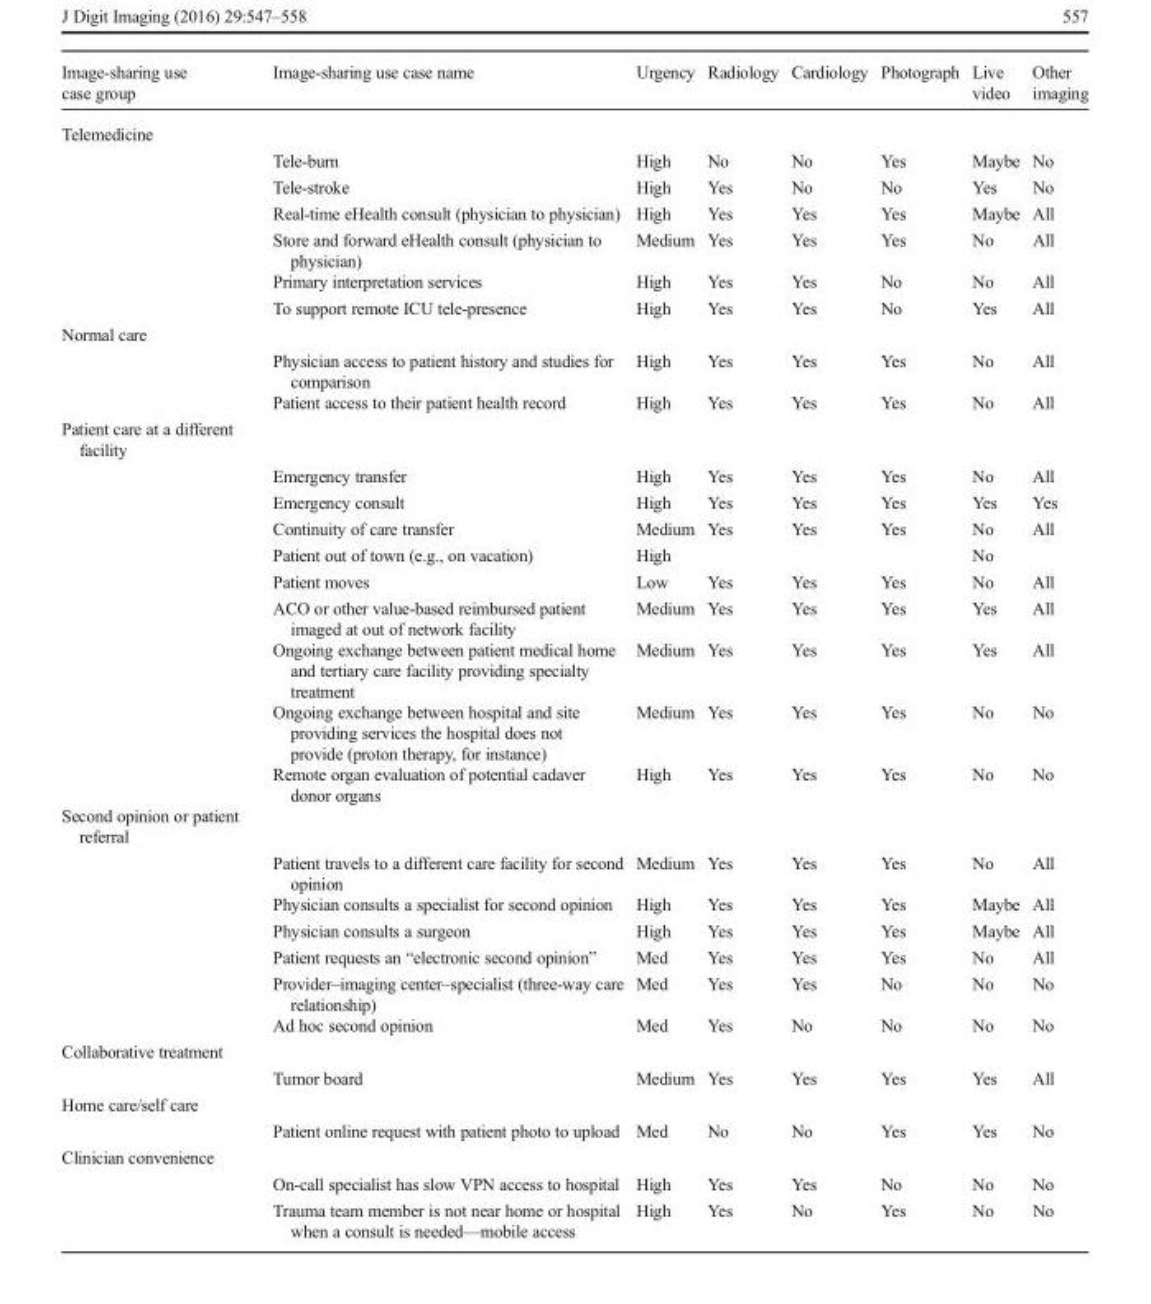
<table><thead><tr><td>Image-sharing use case group</td><td>Image-sharing use case name</td><td>Urgency</td><td>Radiology</td><td>Cardiology</td><td>Photograph</td><td>Live video</td><td>Other imaging</td></tr></thead><tbody><tr><td colspan="8">Telemedicine</td></tr><tr><td></td><td>Tele-burn</td><td>High</td><td>No</td><td>No</td><td>Yes</td><td>Maybe</td><td>No</td></tr><tr><td></td><td>Tele-stroke</td><td>High</td><td>Yes</td><td>No</td><td>No</td><td>Yes</td><td>No</td></tr><tr><td></td><td>Real-time eHealth consult (physician to physician)</td><td>High</td><td>Yes</td><td>Yes</td><td>Yes</td><td>Maybe</td><td>All</td></tr><tr><td></td><td>Store and forward eHealth consult (physician to physician)</td><td>Medium</td><td>Yes</td><td>Yes</td><td>Yes</td><td>No</td><td>All</td></tr><tr><td></td><td>Primary interpretation services</td><td>High</td><td>Yes</td><td>Yes</td><td>No</td><td>No</td><td>All</td></tr><tr><td></td><td>To support remote ICU tele-presence</td><td>High</td><td>Yes</td><td>Yes</td><td>No</td><td>Yes</td><td>All</td></tr><tr><td colspan="8">Normal care</td></tr><tr><td></td><td>Physician access to patient history and studies for comparison</td><td>High</td><td>Yes</td><td>Yes</td><td>Yes</td><td>No</td><td>All</td></tr><tr><td></td><td>Patient access to their patient health record</td><td>High</td><td>Yes</td><td>Yes</td><td>Yes</td><td>No</td><td>All</td></tr><tr><td colspan="8">Patient care at a different facility</td></tr><tr><td></td><td>Emergency transfer</td><td>High</td><td>Yes</td><td>Yes</td><td>Yes</td><td>No</td><td>All</td></tr><tr><td></td><td>Emergency consult</td><td>High</td><td>Yes</td><td>Yes</td><td>Yes</td><td>Yes</td><td>Yes</td></tr><tr><td></td><td>Continuity of care transfer</td><td>Medium</td><td>Yes</td><td>Yes</td><td>Yes</td><td>No</td><td>All</td></tr><tr><td></td><td>Patient out of town (e.g., on vacation)</td><td>High</td><td></td><td></td><td></td><td>No</td><td></td></tr><tr><td></td><td>Patient moves</td><td>Low</td><td>Yes</td><td>Yes</td><td>Yes</td><td>No</td><td>All</td></tr><tr><td></td><td>ACO or other value-based reimbursed patient imaged at out of network facility</td><td>Medium</td><td>Yes</td><td>Yes</td><td>Yes</td><td>Yes</td><td>All</td></tr><tr><td></td><td>Ongoing exchange between patient medical home and tertiary care facility providing specialty treatment</td><td>Medium</td><td>Yes</td><td>Yes</td><td>Yes</td><td>Yes</td><td>All</td></tr><tr><td></td><td>Ongoing exchange between hospital and site providing services the hospital does not provide (proton therapy, for instance)</td><td>Medium</td><td>Yes</td><td>Yes</td><td>Yes</td><td>No</td><td>No</td></tr><tr><td></td><td>Remote organ evaluation of potential cadaver donor organs</td><td>High</td><td>Yes</td><td>Yes</td><td>Yes</td><td>No</td><td>No</td></tr><tr><td colspan="8">Second opinion or patient referral</td></tr><tr><td></td><td>Patient travels to a different care facility for second opinion</td><td>Medium</td><td>Yes</td><td>Yes</td><td>Yes</td><td>No</td><td>All</td></tr><tr><td></td><td>Physician consults a specialist for second opinion</td><td>High</td><td>Yes</td><td>Yes</td><td>Yes</td><td>Maybe</td><td>All</td></tr><tr><td></td><td>Physician consults a surgeon</td><td>High</td><td>Yes</td><td>Yes</td><td>Yes</td><td>Maybe</td><td>All</td></tr><tr><td></td><td>Patient requests an “electronic second opinion”</td><td>Med</td><td>Yes</td><td>Yes</td><td>Yes</td><td>No</td><td>All</td></tr><tr><td></td><td>Provider–imaging center–specialist (three-way care relationship)</td><td>Med</td><td>Yes</td><td>Yes</td><td>No</td><td>No</td><td>No</td></tr><tr><td></td><td>Ad hoc second opinion</td><td>Med</td><td>Yes</td><td>No</td><td>No</td><td>No</td><td>No</td></tr><tr><td colspan="8">Collaborative treatment</td></tr><tr><td></td><td>Tumor board</td><td>Medium</td><td>Yes</td><td>Yes</td><td>Yes</td><td>Yes</td><td>All</td></tr><tr><td colspan="8">Home care/self care</td></tr><tr><td></td><td>Patient online request with patient photo to upload</td><td>Med</td><td>No</td><td>No</td><td>Yes</td><td>Yes</td><td>No</td></tr><tr><td colspan="8">Clinician convenience</td></tr><tr><td></td><td>On-call specialist has slow VPN access to hospital</td><td>High</td><td>Yes</td><td>Yes</td><td>No</td><td>No</td><td>No</td></tr><tr><td></td><td>Trauma team member is not near home or hospital when a consult is needed—mobile access</td><td>High</td><td>Yes</td><td>No</td><td>Yes</td><td>No</td><td>No</td></tr></tbody></table>